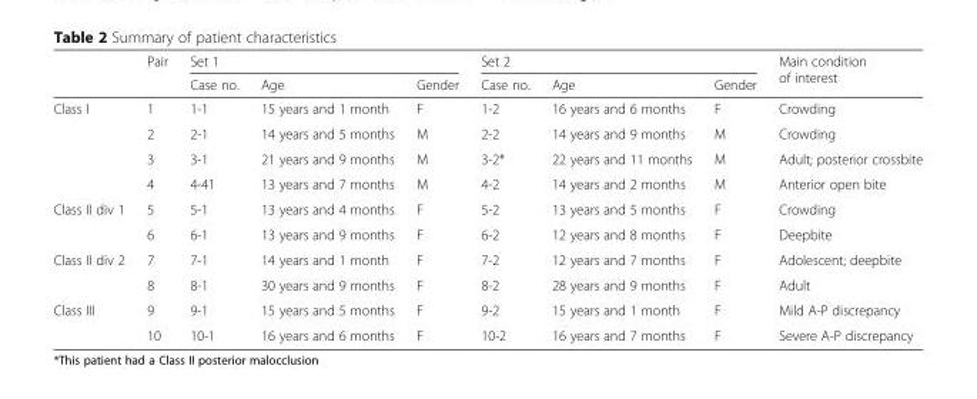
<table><thead><tr><td rowspan="2"></td><td rowspan="2">Pair</td><td colspan="3">Set 1</td><td colspan="3">Set 2</td><td rowspan="2">Main condition of interest</td></tr><tr><td>Case no.</td><td>Age</td><td>Gender</td><td>Case no.</td><td>Age</td><td>Gender</td></tr></thead><tbody><tr><td rowspan="4">Class I</td><td>1</td><td>1-1</td><td>15 years and 1 month</td><td>F</td><td>1-2</td><td>16 years and 6 months</td><td>F</td><td>Crowding</td></tr><tr><td>2</td><td>2-1</td><td>14 years and 5 months</td><td>M</td><td>2-2</td><td>14 years and 9 months</td><td>M</td><td>Crowding</td></tr><tr><td>3</td><td>3-1</td><td>21 years and 9 months</td><td>M</td><td>3-2*</td><td>22 years and 11 months</td><td>M</td><td>Adult; posterior crossbite</td></tr><tr><td>4</td><td>4-41</td><td>13 years and 7 months</td><td>M</td><td>4-2</td><td>14 years and 2 months</td><td>M</td><td>Anterior open bite</td></tr><tr><td rowspan="2">Class II div 1</td><td>5</td><td>5-1</td><td>13 years and 4 months</td><td>F</td><td>5-2</td><td>13 years and 5 months</td><td>F</td><td>Crowding</td></tr><tr><td>6</td><td>6-1</td><td>13 years and 9 months</td><td>F</td><td>6-2</td><td>12 years and 8 months</td><td>F</td><td>Deepbite</td></tr><tr><td rowspan="2">Class II div 2</td><td>7</td><td>7-1</td><td>14 years and 1 month</td><td>F</td><td>7-2</td><td>12 years and 7 months</td><td>F</td><td>Adolescent; deepbite</td></tr><tr><td>8</td><td>8-1</td><td>30 years and 9 months</td><td>F</td><td>8-2</td><td>28 years and 9 months</td><td>F</td><td>Adult</td></tr><tr><td rowspan="2">Class III</td><td>9</td><td>9-1</td><td>15 years and 5 months</td><td>F</td><td>9-2</td><td>15 years and 1 month</td><td>F</td><td>Mild A-P discrepancy</td></tr><tr><td>10</td><td>10-1</td><td>16 years and 6 months</td><td>F</td><td>10-2</td><td>16 years and 7 months</td><td>F</td><td>Severe A-P discrepancy</td></tr></tbody></table>